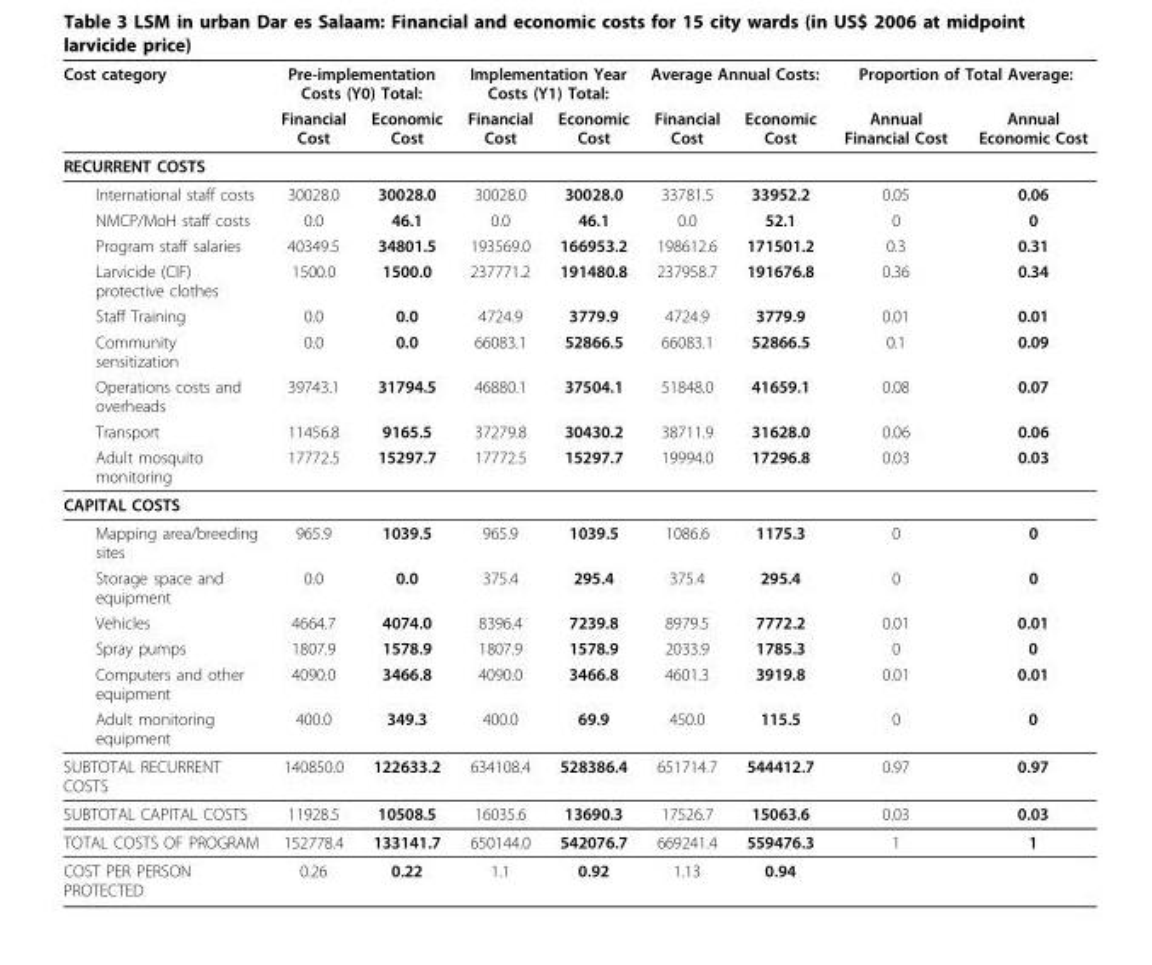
<table><thead><tr><td rowspan="2">Cost category</td><td colspan="2">Pre-implementation Costs (Y0) Total:</td><td colspan="2">Implementation Year Costs (Y1) Total:</td><td colspan="2">Average Annual Costs:</td><td colspan="2">Proportion of Total Average:</td></tr><tr><td>Financial Cost</td><td>Economic Cost</td><td>Financial Cost</td><td>Economic Cost</td><td>Financial Cost</td><td>Economic Cost</td><td>Annual Financial Cost</td><td>Annual Economic Cost</td></tr></thead><tbody><tr><td colspan="9">RECURRENT COSTS</td></tr><tr><td>International staff costs</td><td>30028.0</td><td>30028.0</td><td>30028.0</td><td>30028.0</td><td>33781.5</td><td>33952.2</td><td>0.05</td><td>0.06</td></tr><tr><td>NMCP/MoH staff costs</td><td>0.0</td><td>46.1</td><td>0.0</td><td>46.1</td><td>0.0</td><td>52.1</td><td>0</td><td>0</td></tr><tr><td>Program staff salaries</td><td>40349.5</td><td>34801.5</td><td>193569.0</td><td>166953.2</td><td>198612.6</td><td>171501.2</td><td>0.3</td><td>0.31</td></tr><tr><td>Larvicide (CIF) protective clothes</td><td>1500.0</td><td>1500.0</td><td>237771.2</td><td>191480.8</td><td>237958.7</td><td>191676.8</td><td>0.36</td><td>0.34</td></tr><tr><td>Staff Training</td><td>0.0</td><td>0.0</td><td>4724.9</td><td>3779.9</td><td>4724.9</td><td>3779.9</td><td>0.01</td><td>0.01</td></tr><tr><td>Community sensitization</td><td>0.0</td><td>0.0</td><td>66083.1</td><td>52866.5</td><td>66083.1</td><td>52866.5</td><td>0.1</td><td>0.09</td></tr><tr><td>Operations costs and overheads</td><td>39743.1</td><td>31794.5</td><td>46880.1</td><td>37504.1</td><td>51848.0</td><td>41659.1</td><td>0.08</td><td>0.07</td></tr><tr><td>Transport</td><td>11456.8</td><td>9165.5</td><td>37279.8</td><td>30430.2</td><td>38711.9</td><td>31628.0</td><td>0.06</td><td>0.06</td></tr><tr><td>Adult mosquito monitoring</td><td>17772.5</td><td>15297.7</td><td>17772.5</td><td>15297.7</td><td>19994.0</td><td>17296.8</td><td>0.03</td><td>0.03</td></tr><tr><td colspan="9">CAPITAL COSTS</td></tr><tr><td>Mapping area/breeding sites</td><td>965.9</td><td>1039.5</td><td>965.9</td><td>1039.5</td><td>1086.6</td><td>1175.3</td><td>0</td><td>0</td></tr><tr><td>Storage space and equipment</td><td>0.0</td><td>0.0</td><td>375.4</td><td>295.4</td><td>375.4</td><td>295.4</td><td>0</td><td>0</td></tr><tr><td>Vehicles</td><td>4664.7</td><td>4074.0</td><td>8396.4</td><td>7239.8</td><td>8979.5</td><td>7772.2</td><td>0.01</td><td>0.01</td></tr><tr><td>Spray pumps</td><td>1807.9</td><td>1578.9</td><td>1807.9</td><td>1578.9</td><td>2033.9</td><td>1785.3</td><td>0</td><td>0</td></tr><tr><td>Computers and other equipment</td><td>4090.0</td><td>3466.8</td><td>4090.0</td><td>3466.8</td><td>4601.3</td><td>3919.8</td><td>0.01</td><td>0.01</td></tr><tr><td>Adult monitoring equipment</td><td>400.0</td><td>349.3</td><td>400.0</td><td>69.9</td><td>450.0</td><td>115.5</td><td>0</td><td>0</td></tr><tr><td>SUBTOTAL RECURRENT COSTS</td><td>140850.0</td><td>122633.2</td><td>634108.4</td><td>528386.4</td><td>651714.7</td><td>544412.7</td><td>0.97</td><td>0.97</td></tr><tr><td>SUBTOTAL CAPITAL COSTS</td><td>11928.5</td><td>10508.5</td><td>16035.6</td><td>13690.3</td><td>17526.7</td><td>15063.6</td><td>0.03</td><td>0.03</td></tr><tr><td>TOTAL COSTS OF PROGRAM</td><td>152778.4</td><td>133141.7</td><td>650144.0</td><td>542076.7</td><td>669241.4</td><td>559476.3</td><td>1</td><td>1</td></tr><tr><td>COST PER PERSON PROTECTED</td><td>0.26</td><td>0.22</td><td>1.1</td><td>0.92</td><td>1.13</td><td>0.94</td><td></td><td></td></tr></tbody></table>